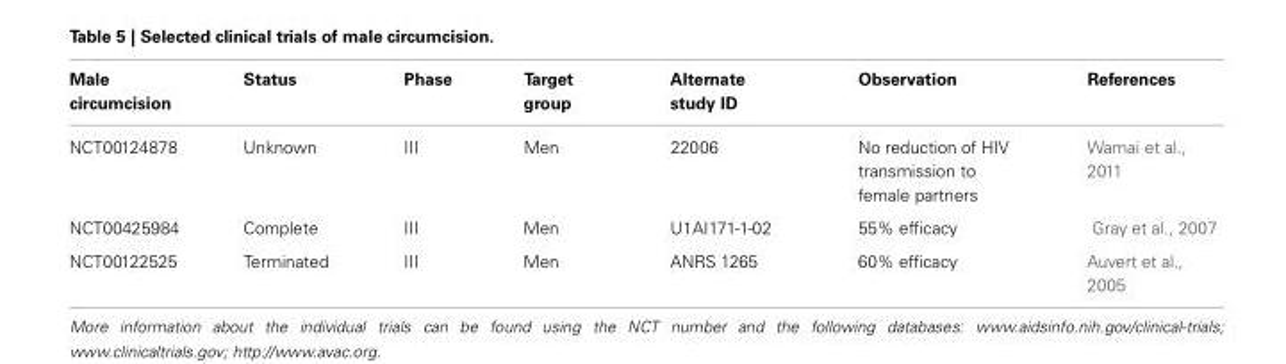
<table><thead><tr><td>Male circumcision</td><td>Status</td><td>Phase</td><td>Target group</td><td>Alternate study ID</td><td>Observation</td><td>References</td></tr></thead><tbody><tr><td>NCT00124878</td><td>Unknown</td><td>III</td><td>Men</td><td>22006</td><td>No reduction of HIV transmission to female partners</td><td>Wamai et al., 2011</td></tr><tr><td>NCT00425984</td><td>Complete</td><td>III</td><td>Men</td><td>U1AI171-1-02</td><td>55% efficacy</td><td>Gray et al., 2007</td></tr><tr><td>NCT00122525</td><td>Terminated</td><td>III</td><td>Men</td><td>ANRS 1265</td><td>60% efficacy</td><td>Auvert et al., 2005</td></tr></tbody></table>